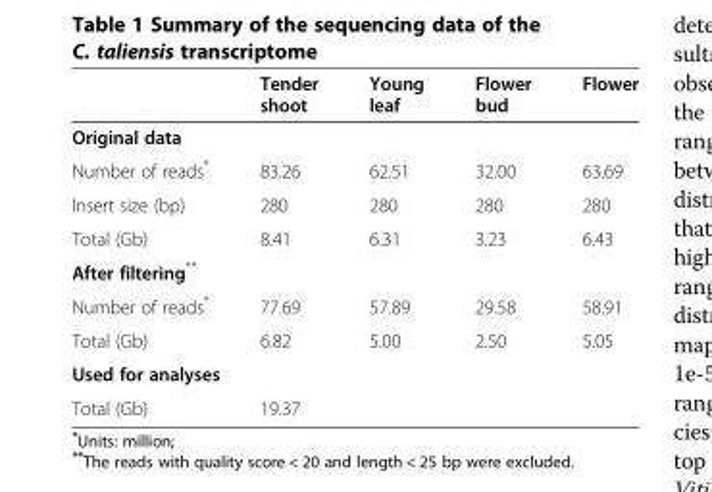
<table><thead><tr><td></td><td>Tender shoot</td><td>Young leaf</td><td>Flower bud</td><td>Flower</td></tr></thead><tbody><tr><td colspan="5">Original data</td></tr><tr><td>Number of reads*</td><td>83.26</td><td>62.51</td><td>32.00</td><td>63.69</td></tr><tr><td>Insert size (bp)</td><td>280</td><td>280</td><td>280</td><td>280</td></tr><tr><td>Total (Gb)</td><td>8.41</td><td>6.31</td><td>3.23</td><td>6.43</td></tr><tr><td colspan="5">After filtering**</td></tr><tr><td>Number of reads*</td><td>77.69</td><td>57.89</td><td>29.58</td><td>58.91</td></tr><tr><td>Total (Gb)</td><td>6.82</td><td>5.00</td><td>2.50</td><td>5.05</td></tr><tr><td colspan="5">Used for analyses</td></tr><tr><td>Total (Gb)</td><td colspan="4">19.37</td></tr></tbody></table>